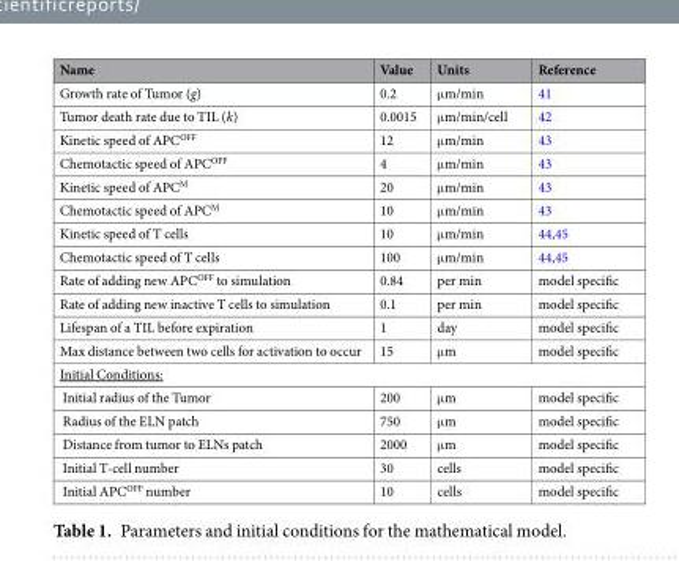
<table><thead><tr><td>Name</td><td>Value</td><td>Units</td><td>Reference</td></tr></thead><tbody><tr><td>Growth rate of Tumor (g)</td><td>0.2</td><td>μm/min</td><td>41</td></tr><tr><td>Tumor death rate due to TIL (k)</td><td>0.0015</td><td>μm/min/cell</td><td>42</td></tr><tr><td>Kinetic speed of APC<sup>OFF</sup></td><td>12</td><td>μm/min</td><td>43</td></tr><tr><td>Chemotactic speed of APC<sup>OFF</sup></td><td>4</td><td>μm/min</td><td>43</td></tr><tr><td>Kinetic speed of APC<sup>M</sup></td><td>20</td><td>μm/min</td><td>43</td></tr><tr><td>Chemotactic speed of APC<sup>M</sup></td><td>10</td><td>μm/min</td><td>43</td></tr><tr><td>Kinetic speed of T cells</td><td>10</td><td>μm/min</td><td>44,45</td></tr><tr><td>Chemotactic speed of T cells</td><td>100</td><td>μm/min</td><td>44,45</td></tr><tr><td>Rate of adding new APC<sup>OFF</sup> to simulation</td><td>0.84</td><td>per min</td><td>model specific</td></tr><tr><td>Rate of adding new inactive T cells to simulation</td><td>0.1</td><td>per min</td><td>model specific</td></tr><tr><td>Lifespan of a TIL before expiration</td><td>1</td><td>day</td><td>model specific</td></tr><tr><td>Max distance between two cells for activation to occur</td><td>15</td><td>μm</td><td>model specific</td></tr><tr><td colspan="4">Initial Conditions:</td></tr><tr><td>Initial radius of the Tumor</td><td>200</td><td>μm</td><td>model specific</td></tr><tr><td>Radius of the ELN patch</td><td>750</td><td>μm</td><td>model specific</td></tr><tr><td>Distance from tumor to ELNs patch</td><td>2000</td><td>μm</td><td>model specific</td></tr><tr><td>Initial T-cell number</td><td>30</td><td>cells</td><td>model specific</td></tr><tr><td>Initial APC<sup>OFF</sup> number</td><td>10</td><td>cells</td><td>model specific</td></tr></tbody></table>